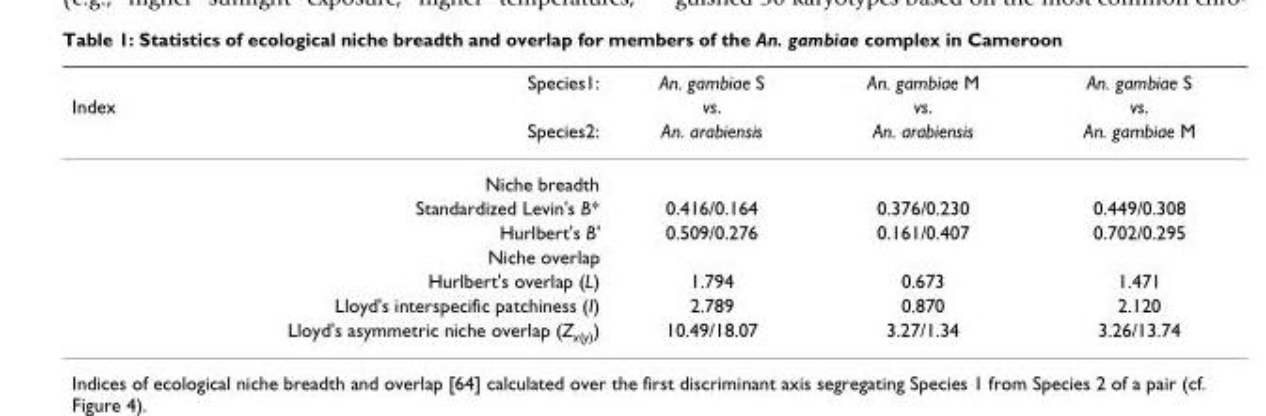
<table><thead><tr><td rowspan="3">Species1: Index Species2:</td><td rowspan="3">An. gambiae S vs. An. arabiensis</td><td rowspan="3">An. gambiae M vs. An. arabiensis</td><td rowspan="3">An. gambiae S vs. An. gambiae M</td></tr><tr></tr><tr></tr></thead><tbody><tr><td colspan="4">Niche breadth</td></tr><tr><td>Standardized Levin&#x27;s B*</td><td>0.416/0.164</td><td>0.376/0.230</td><td>0.449/0.308</td></tr><tr><td>Hurlbert&#x27;s B&#x27;</td><td>0.509/0.276</td><td>0.161/0.407</td><td>0.702/0.295</td></tr><tr><td colspan="4">Niche overlap</td></tr><tr><td>Hurlbert&#x27;s overlap (L)</td><td>1.794</td><td>0.673</td><td>1.471</td></tr><tr><td>Lloyd&#x27;s interspecific patchiness (I)</td><td>2.789</td><td>0.870</td><td>2.120</td></tr><tr><td>Lloyd&#x27;s asymmetric niche overlap (Z<sub>x(y)</sub>)</td><td>10.49/18.07</td><td>3.27/1.34</td><td>3.26/13.74</td></tr></tbody></table>